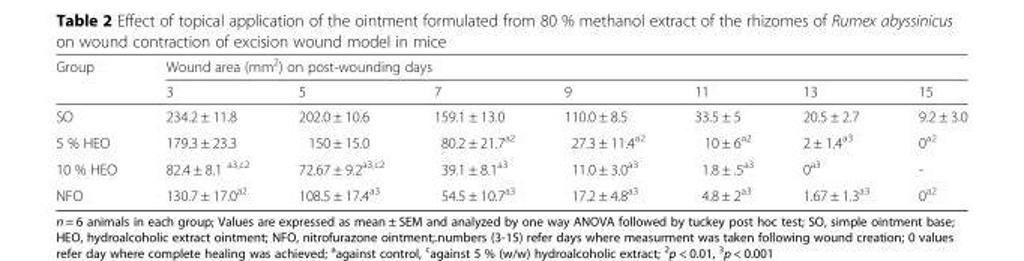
<table><thead><tr><td rowspan="2">Group</td><td colspan="7">Wound area (mm<sup>2</sup>) on post-wounding days</td></tr><tr><td>3</td><td>5</td><td>7</td><td>9</td><td>11</td><td>13</td><td>15</td></tr></thead><tbody><tr><td>SO</td><td>234.2 ± 11.8</td><td>202.0 ± 10.6</td><td>159.1 ± 13.0</td><td>110.0 ± 8.5</td><td>33.5 ± 5</td><td>20.5 ± 2.7</td><td>9.2 ± 3.0</td></tr><tr><td>5 % HEO</td><td>179.3 ± 23.3</td><td>150 ± 15.0</td><td>80.2 ± 21.7<sup>a2</sup></td><td>27.3 ± 11.4<sup>a2</sup></td><td>10 ± 6<sup>a2</sup></td><td>2 ± 1.4<sup>a3</sup></td><td>0<sup>a2</sup></td></tr><tr><td>10 % HEO</td><td>82.4 ± 8.1 <sup>a3,c2</sup></td><td>72.67 ± 9.2<sup>a3,c2</sup></td><td>39.1 ± 8.1<sup>a3</sup></td><td>11.0 ± 3.0<sup>a3</sup></td><td>1.8 ± .5<sup>a3</sup></td><td>0<sup>a3</sup></td><td>-</td></tr><tr><td>NFO</td><td>130.7 ± 17.0<sup>a2</sup></td><td>108.5 ± 17.4<sup>a3</sup></td><td>54.5 ± 10.7<sup>a3</sup></td><td>17.2 ± 4.8<sup>a3</sup></td><td>4.8 ± 2<sup>a3</sup></td><td>1.67 ± 1.3<sup>a3</sup></td><td>0<sup>a2</sup></td></tr></tbody></table>